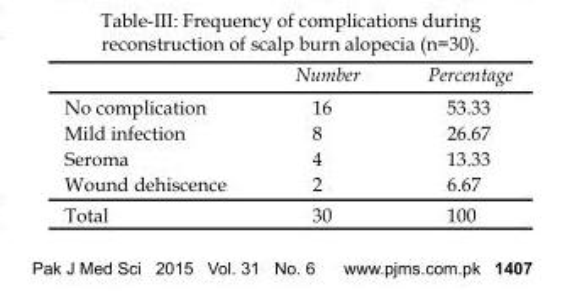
<table><thead><tr><td></td><td>Number</td><td>Percentage</td></tr></thead><tbody><tr><td>No complication</td><td>16</td><td>53.33</td></tr><tr><td>Mild infection</td><td>8</td><td>26.67</td></tr><tr><td>Seroma</td><td>4</td><td>13.33</td></tr><tr><td>Wound dehiscence</td><td>2</td><td>6.67</td></tr><tr><td>Total</td><td>30</td><td>100</td></tr></tbody></table>